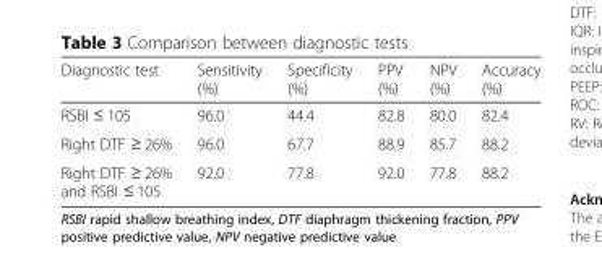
<table><thead><tr><td>Diagnostic test</td><td>Sensitivity (%)</td><td>Specificity (%)</td><td>PPV (%)</td><td>NPV (%)</td><td>Accuracy (%)</td></tr></thead><tbody><tr><td>RSBI ≤ 105</td><td>96.0</td><td>44.4</td><td>82.8</td><td>80.0</td><td>82.4</td></tr><tr><td>Right DTF ≥ 26%</td><td>96.0</td><td>67.7</td><td>88.9</td><td>85.7</td><td>88.2</td></tr><tr><td>Right DTF ≥ 26% and RSBI ≤ 105</td><td>92.0</td><td>77.8</td><td>92.0</td><td>77.8</td><td>88.2</td></tr></tbody></table>